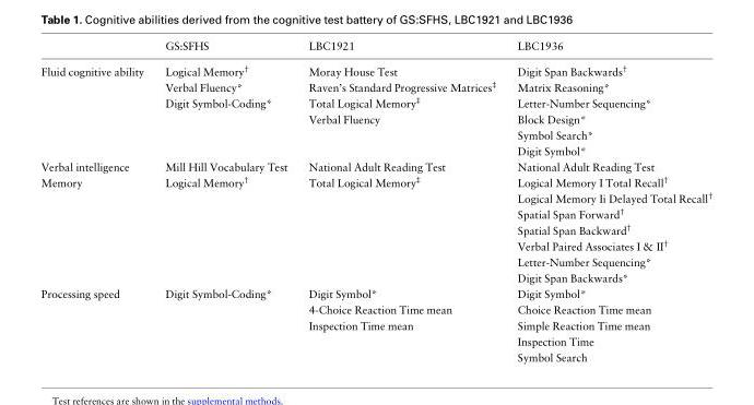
<table><thead><tr><td></td><td>GS:SFHS</td><td>LBC1921</td><td>LBC1936</td></tr></thead><tbody><tr><td>Fluid cognitive ability</td><td>Logical Memory<sup>†</sup> Verbal Fluency* Digit Symbol-Coding*</td><td>Moray House Test Raven’s Standard Progressive Matrices<sup>‡</sup> Total Logical Memory<sup>‡</sup> Verbal Fluency</td><td>Digit Span Backwards<sup>†</sup> Matrix Reasoning* Letter-Number Sequencing* Block Design* Symbol Search* Digit Symbol*</td></tr><tr><td>Verbal intelligence</td><td>Mill Hill Vocabulary Test</td><td>National Adult Reading Test</td><td>National Adult Reading Test</td></tr><tr><td>Memory</td><td>Logical Memory<sup>†</sup></td><td>Total Logical Memory<sup>‡</sup></td><td>Logical Memory I Total Recall<sup>†</sup> Logical Memory Ii Delayed Total Recall<sup>†</sup> Spatial Span Forward<sup>†</sup> Spatial Span Backward<sup>†</sup> Verbal Paired Associates I &amp; II<sup>†</sup> Letter-Number Sequencing* Digit Span Backwards*</td></tr><tr><td>Processing speed</td><td>Digit Symbol-Coding*</td><td>Digit Symbol* 4-Choice Reaction Time mean Inspection Time mean</td><td>Digit Symbol* Choice Reaction Time mean Simple Reaction Time mean Inspection Time Symbol Search</td></tr></tbody></table>